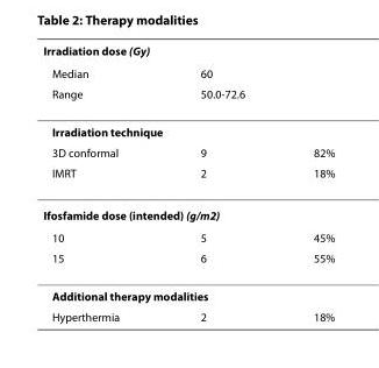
<table><thead><tr><td colspan="3">Irradiation dose (Gy)</td></tr><tr><td rowspan="2">Median Range</td><td rowspan="2">60 50.0-72.6</td><td rowspan="2"></td></tr><tr></tr></thead><tbody><tr><td colspan="3">Irradiation technique</td></tr><tr><td>3D conformal</td><td>9</td><td>82%</td></tr><tr><td>IMRT</td><td>2</td><td>18%</td></tr><tr><td colspan="3">Ifosfamide dose (intended) (g/m<sup>2</sup>)</td></tr><tr><td>10</td><td>5</td><td>45%</td></tr><tr><td>15</td><td>6</td><td>55%</td></tr><tr><td colspan="3">Additional therapy modalities</td></tr><tr><td>Hyperthermia</td><td>2</td><td>18%</td></tr></tbody></table>